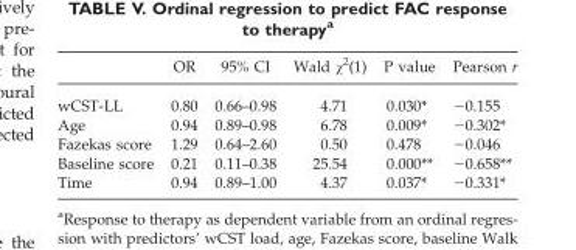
<table><thead><tr><td></td><td>OR</td><td>95% CI</td><td>Wald χ<sup>2</sup>(1)</td><td>P value</td><td>Pearson r</td></tr></thead><tbody><tr><td>wCST-LL</td><td>0.80</td><td>0.66–0.98</td><td>4.71</td><td>0.030*</td><td>−0.155</td></tr><tr><td>Age</td><td>0.94</td><td>0.89–0.98</td><td>6.78</td><td>0.009*</td><td>−0.302*</td></tr><tr><td>Fazekas score</td><td>1.29</td><td>0.64–2.60</td><td>0.50</td><td>0.478</td><td>−0.046</td></tr><tr><td>Baseline score</td><td>0.21</td><td>0.11–0.38</td><td>25.54</td><td>0.000**</td><td>−0.658**</td></tr><tr><td>Time</td><td>0.94</td><td>0.89–1.00</td><td>4.37</td><td>0.037*</td><td>−0.331*</td></tr></tbody></table>